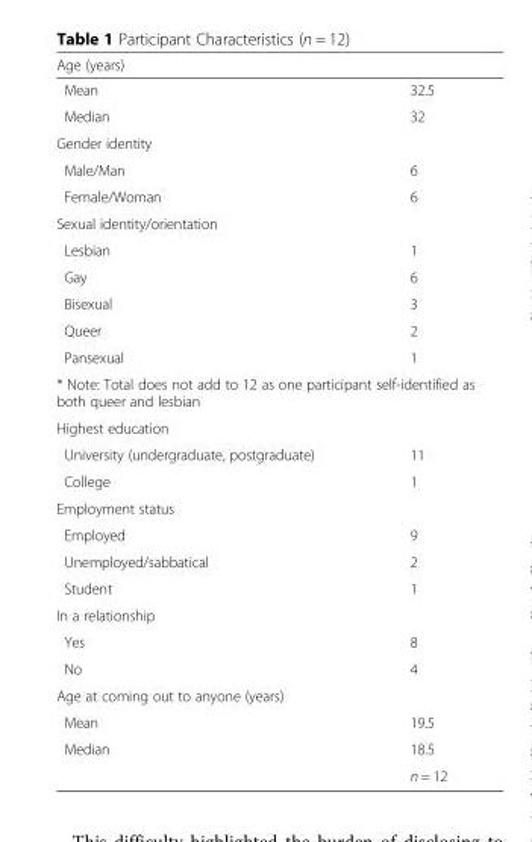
<table><thead><tr><td colspan="2">Age (years)</td></tr><tr><td>Mean</td><td>32.5</td></tr></thead><tbody><tr><td>Median</td><td>32</td></tr><tr><td colspan="2">Gender identity</td></tr><tr><td>Male/Man</td><td>6</td></tr><tr><td>Female/Woman</td><td>6</td></tr><tr><td colspan="2">Sexual identity/orientation</td></tr><tr><td>Lesbian</td><td>1</td></tr><tr><td>Gay</td><td>6</td></tr><tr><td>Bisexual</td><td>3</td></tr><tr><td>Queer</td><td>2</td></tr><tr><td>Pansexual</td><td>1</td></tr><tr><td colspan="2">* Note: Total does not add to 12 as one participant self-identified as both queer and lesbian</td></tr><tr><td colspan="2">Highest education</td></tr><tr><td>University (undergraduate, postgraduate)</td><td>11</td></tr><tr><td>College</td><td>1</td></tr><tr><td colspan="2">Employment status</td></tr><tr><td>Employed</td><td>9</td></tr><tr><td>Unemployed/sabbatical</td><td>2</td></tr><tr><td>Student</td><td>1</td></tr><tr><td colspan="2">In a relationship</td></tr><tr><td>Yes</td><td>8</td></tr><tr><td>No</td><td>4</td></tr><tr><td colspan="2">Age at coming out to anyone (years)</td></tr><tr><td>Mean</td><td>19.5</td></tr><tr><td rowspan="2">Median</td><td>18.5</td></tr><tr><td>n = 12</td></tr></tbody></table>